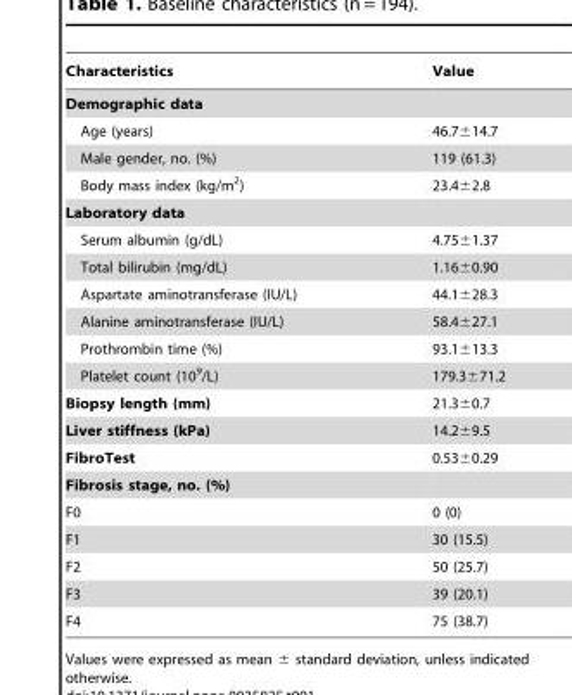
<table><thead><tr><td>Characteristics</td><td>Value</td></tr></thead><tbody><tr><td colspan="2">Demographic data</td></tr><tr><td>Age (years)</td><td>46.7±14.7</td></tr><tr><td>Male gender, no. (%)</td><td>119 (61.3)</td></tr><tr><td>Body mass index (kg/m<sup>2</sup>)</td><td>23.4±2.8</td></tr><tr><td colspan="2">Laboratory data</td></tr><tr><td>Serum albumin (g/dL)</td><td>4.75±1.37</td></tr><tr><td>Total bilirubin (mg/dL)</td><td>1.16±0.90</td></tr><tr><td>Aspartate aminotransferase (IU/L)</td><td>44.1±28.3</td></tr><tr><td>Alanine aminotransferase (IU/L)</td><td>58.4±27.1</td></tr><tr><td>Prothrombin time (%)</td><td>93.1±13.3</td></tr><tr><td>Platelet count (10<sup>9</sup>/L)</td><td>179.3±71.2</td></tr><tr><td>Biopsy length (mm)</td><td>21.3±0.7</td></tr><tr><td>Liver stiffness (kPa)</td><td>14.2±9.5</td></tr><tr><td>FibroTest</td><td>0.53±0.29</td></tr><tr><td colspan="2">Fibrosis stage, no. (%)</td></tr><tr><td>F0</td><td>0 (0)</td></tr><tr><td>F1</td><td>30 (15.5)</td></tr><tr><td>F2</td><td>50 (25.7)</td></tr><tr><td>F3</td><td>39 (20.1)</td></tr><tr><td>F4</td><td>75 (38.7)</td></tr></tbody></table>